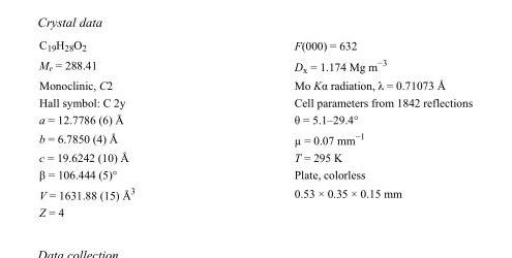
<table><tbody><tr><td>C<sub>19</sub>H<sub>28</sub>O<sub>2</sub></td><td>F(000) = 632</td></tr><tr><td>M<sub>r</sub> = 288.41</td><td>D<sub>x</sub> = 1.174 Mg m<sup>−3</sup></td></tr><tr><td>Monoclinic, C2</td><td>Mo Kα radiation, λ = 0.71073 Å</td></tr><tr><td>Hall symbol: C 2y</td><td>Cell parameters from 1842 reflections</td></tr><tr><td>a = 12.7786 (6) Å</td><td>θ = 5.1–29.4°</td></tr><tr><td>b = 6.7850 (4) Å</td><td>µ = 0.07 mm<sup>−1</sup></td></tr><tr><td>c = 19.6242 (10) Å</td><td>T = 295 K</td></tr><tr><td>β = 106.444 (5)°</td><td>Plate, colorless</td></tr><tr><td>V = 1631.88 (15) Å<sup>3</sup></td><td>0.53 × 0.35 × 0.15 mm</td></tr><tr><td>Z = 4</td><td></td></tr></tbody></table>